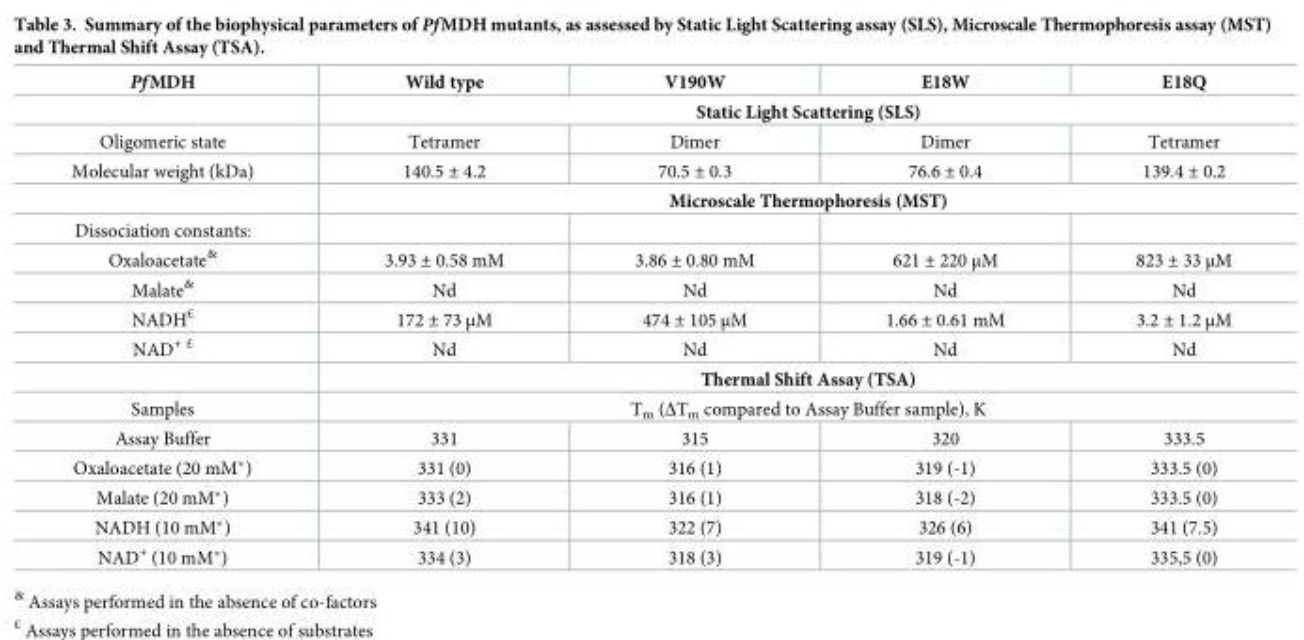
<table><thead><tr><td>PfMDH</td><td>Wild type</td><td>V190W</td><td>E18W</td><td>E18Q</td></tr></thead><tbody><tr><td></td><td colspan="4">Static Light Scattering (SLS)</td></tr><tr><td>Oligomeric state</td><td>Tetramer</td><td>Dimer</td><td>Dimer</td><td>Tetramer</td></tr><tr><td rowspan="2">Molecular weight (kDa)</td><td>140.5 ± 4.2</td><td>70.5 ± 0.3</td><td>76.6 ± 0.4</td><td>139.4 ± 0.2</td></tr><tr><td colspan="4">Microscale Thermophoresis (MST)</td></tr><tr><td colspan="5">Dissociation constants:</td></tr><tr><td>Oxaloacetate<sup>&amp;</sup></td><td>3.93 ± 0.58 mM</td><td>3.86 ± 0.80 mM</td><td>621 ± 220 μM</td><td>823 ± 33 μM</td></tr><tr><td>Malate<sup>&amp;</sup></td><td>Nd</td><td>Nd</td><td>Nd</td><td>Nd</td></tr><tr><td>NADH<sup>£</sup></td><td>172 ± 73 μM</td><td>474 ± 105 μM</td><td>1.66 ± 0.61 mM</td><td>3.2 ± 1.2 μM</td></tr><tr><td rowspan="2">NAD<sup>+ £</sup></td><td>Nd</td><td>Nd</td><td>Nd</td><td>Nd</td></tr><tr><td colspan="4">Thermal Shift Assay (TSA)</td></tr><tr><td>Samples</td><td colspan="4">T<sub>m</sub> (ΔT<sub>m</sub> compared to Assay Buffer sample), K</td></tr><tr><td>Assay Buffer</td><td>331</td><td>315</td><td>320</td><td>333.5</td></tr><tr><td>Oxaloacetate (20 mM*)</td><td>331 (0)</td><td>316 (1)</td><td>319 (-1)</td><td>333.5 (0)</td></tr><tr><td>Malate (20 mM*)</td><td>333 (2)</td><td>316 (1)</td><td>318 (-2)</td><td>333.5 (0)</td></tr><tr><td>NADH (10 mM*)</td><td>341 (10)</td><td>322 (7)</td><td>326 (6)</td><td>341 (7.5)</td></tr><tr><td>NAD<sup>+</sup> (10 mM*)</td><td>334 (3)</td><td>318 (3)</td><td>319 (-1)</td><td>335,5 (0)</td></tr></tbody></table>